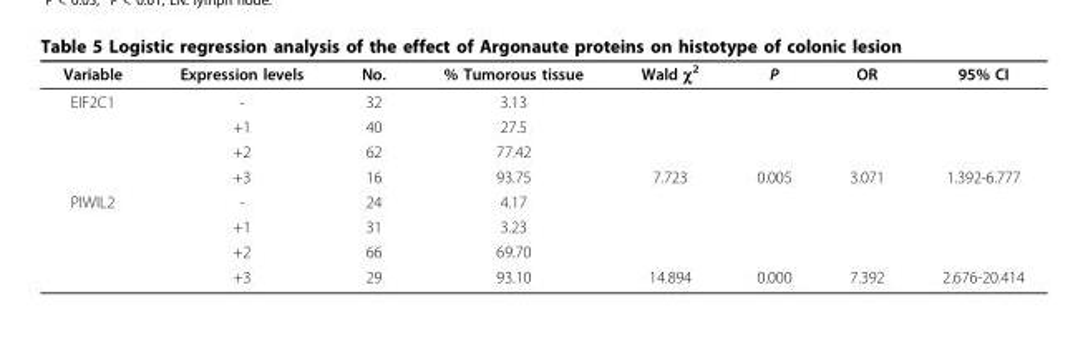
<table><thead><tr><td>Variable</td><td>Expression levels</td><td>No.</td><td>% Tumorous tissue</td><td>Wald χ<sup>2</sup></td><td>P</td><td>OR</td><td>95% CI</td></tr></thead><tbody><tr><td rowspan="4">EIF2C1</td><td>-</td><td>32</td><td>3.13</td><td></td><td></td><td></td><td></td></tr><tr><td>+1</td><td>40</td><td>27.5</td><td></td><td></td><td></td><td></td></tr><tr><td>+2</td><td>62</td><td>77.42</td><td></td><td></td><td></td><td></td></tr><tr><td>+3</td><td>16</td><td>93.75</td><td>7.723</td><td>0.005</td><td>3.071</td><td>1.392-6.777</td></tr><tr><td rowspan="4">PIWIL2</td><td>-</td><td>24</td><td>4.17</td><td></td><td></td><td></td><td></td></tr><tr><td>+1</td><td>31</td><td>3.23</td><td></td><td></td><td></td><td></td></tr><tr><td>+2</td><td>66</td><td>69.70</td><td></td><td></td><td></td><td></td></tr><tr><td>+3</td><td>29</td><td>93.10</td><td>14.894</td><td>0.000</td><td>7.392</td><td>2.676-20.414</td></tr></tbody></table>